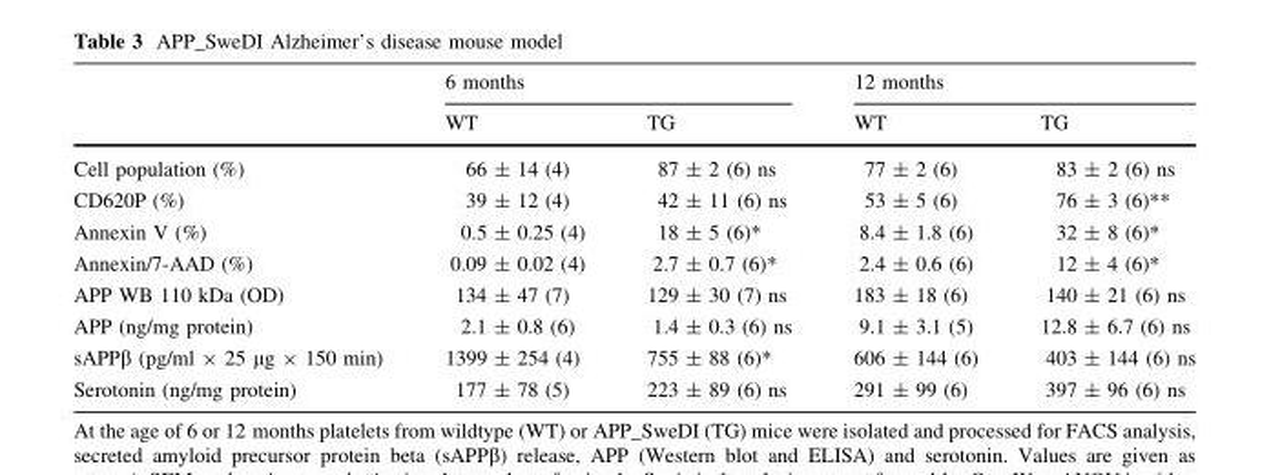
<table><thead><tr><td rowspan="2"></td><td colspan="2">6 months</td><td colspan="2">12 months</td></tr><tr><td>WT</td><td>TG</td><td>WT</td><td>TG</td></tr></thead><tbody><tr><td>Cell population (%)</td><td>66 ± 14 (4)</td><td>87 ± 2 (6) ns</td><td>77 ± 2 (6)</td><td>83 ± 2 (6) ns</td></tr><tr><td>CD620P (%)</td><td>39 ± 12 (4)</td><td>42 ± 11 (6) ns</td><td>53 ± 5 (6)</td><td>76 ± 3 (6)**</td></tr><tr><td>Annexin V (%)</td><td>0.5 ± 0.25 (4)</td><td>18 ± 5 (6)*</td><td>8.4 ± 1.8 (6)</td><td>32 ± 8 (6)*</td></tr><tr><td>Annexin/7-AAD (%)</td><td>0.09 ± 0.02 (4)</td><td>2.7 ± 0.7 (6)*</td><td>2.4 ± 0.6 (6)</td><td>12 ± 4 (6)*</td></tr><tr><td>APP WB 110 kDa (OD)</td><td>134 ± 47 (7)</td><td>129 ± 30 (7) ns</td><td>183 ± 18 (6)</td><td>140 ± 21 (6) ns</td></tr><tr><td>APP (ng/mg protein)</td><td>2.1 ± 0.8 (6)</td><td>1.4 ± 0.3 (6) ns</td><td>9.1 ± 3.1 (5)</td><td>12.8 ± 6.7 (6) ns</td></tr><tr><td>sAPPβ (pg/ml × 25 µg × 150 min)</td><td>1399 ± 254 (4)</td><td>755 ± 88 (6)*</td><td>606 ± 144 (6)</td><td>403 ± 144 (6) ns</td></tr><tr><td>Serotonin (ng/mg protein)</td><td>177 ± 78 (5)</td><td>223 ± 89 (6) ns</td><td>291 ± 99 (6)</td><td>397 ± 96 (6) ns</td></tr></tbody></table>